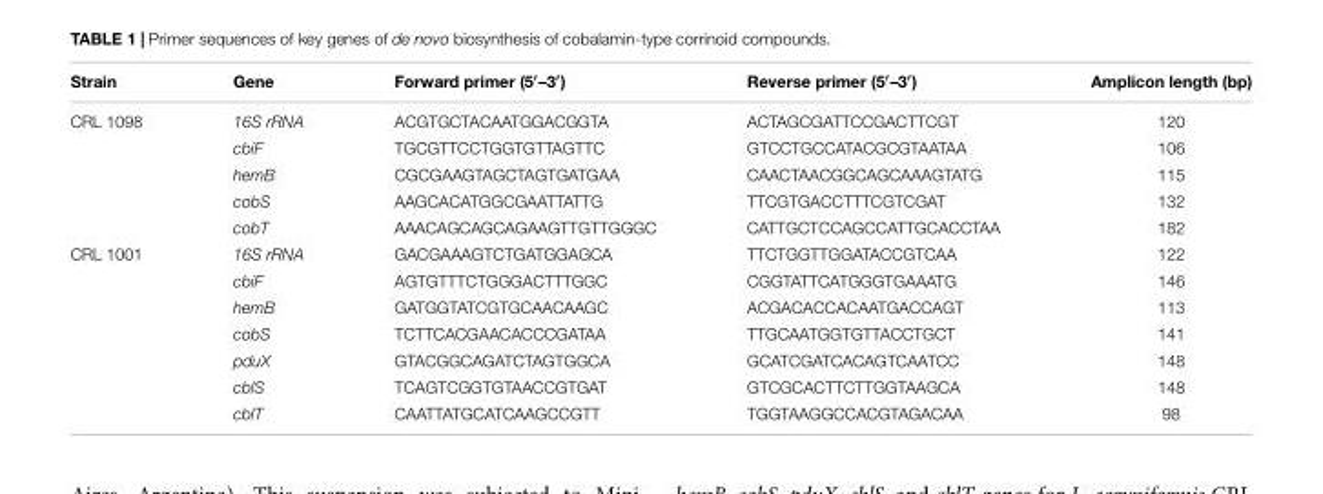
<table><thead><tr><td>Strain</td><td>Gene</td><td>Forward primer (5′–3′)</td><td>Reverse primer (5′–3′)</td><td>Amplicon length (bp)</td></tr></thead><tbody><tr><td rowspan="5">CRL 1098</td><td>16S rRNA</td><td>ACGTGCTACAATGGACGGTA</td><td>ACTAGCGATTCCGACTTCGT</td><td>120</td></tr><tr><td>cbiF</td><td>TGCGTTCCTGGTGTTAGTTC</td><td>GTCCTGCCATACGCGTAATAA</td><td>106</td></tr><tr><td>hemB</td><td>CGCGAAGTAGCTAGTGATGAA</td><td>CAACTAACGGCAGCAAAGTATG</td><td>115</td></tr><tr><td>cobS</td><td>AAGCACATGGCGAATTATTG</td><td>TTCGTGACCTTTCGTCGAT</td><td>132</td></tr><tr><td>cobT</td><td>AAACAGCAGCAGAAGTTGTTGGGC</td><td>CATTGCTCCAGCCATTGCACCTAA</td><td>182</td></tr><tr><td rowspan="7">CRL 1001</td><td>16S rRNA</td><td>GACGAAAGTCTGATGGAGCA</td><td>TTCTGGTTGGATACCGTCAA</td><td>122</td></tr><tr><td>cbiF</td><td>AGTGTTTCTGGGACTTTGGC</td><td>CGGTATTCATGGGTGAAATG</td><td>146</td></tr><tr><td>hemB</td><td>GATGGTATCGTGCAACAAGC</td><td>ACGACACCACAATGACCAGT</td><td>113</td></tr><tr><td>cobS</td><td>TCTTCACGAACACCCGATAA</td><td>TTGCAATGGTGTTACCTGCT</td><td>141</td></tr><tr><td>pduX</td><td>GTACGGCAGATCTAGTGGCA</td><td>GCATCGATCACAGTCAATCC</td><td>148</td></tr><tr><td>cblS</td><td>TCAGTCGGTGTAACCGTGAT</td><td>GTCGCACTTCTTGGTAAGCA</td><td>148</td></tr><tr><td>cblT</td><td>CAATTATGCATCAAGCCGTT</td><td>TGGTAAGGCCACGTAGACAA</td><td>98</td></tr></tbody></table>